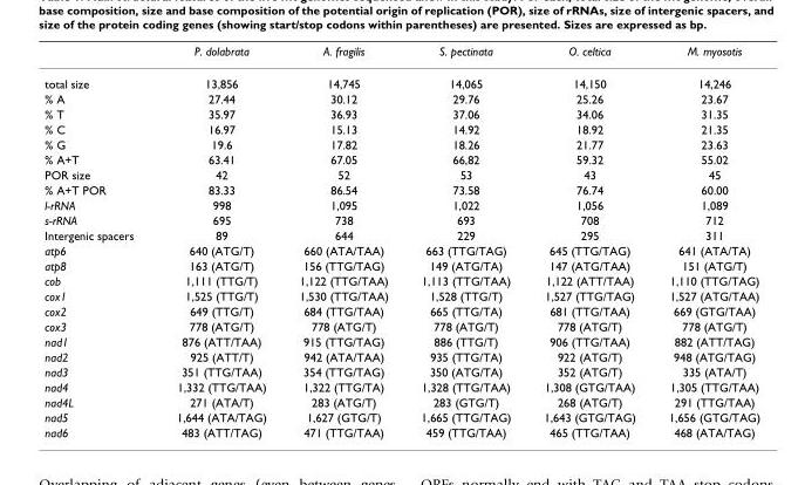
<table><thead><tr><td></td><td>P. dolabrata</td><td>A. fragilis</td><td>S. pectinata</td><td>O. celtica</td><td>M. myosotis</td></tr></thead><tbody><tr><td>total size</td><td>13,856</td><td>14,745</td><td>14,065</td><td>14,150</td><td>14,246</td></tr><tr><td>% A</td><td>27.44</td><td>30.12</td><td>29.76</td><td>25.26</td><td>23.67</td></tr><tr><td>% T</td><td>35.97</td><td>36.93</td><td>37.06</td><td>34.06</td><td>31.35</td></tr><tr><td>% C</td><td>16.97</td><td>15.13</td><td>14.92</td><td>18.92</td><td>21.35</td></tr><tr><td>% G</td><td>19.6</td><td>17.82</td><td>18.26</td><td>21.77</td><td>23.63</td></tr><tr><td>% A+T</td><td>63.41</td><td>67.05</td><td>66,82</td><td>59.32</td><td>55.02</td></tr><tr><td>POR size</td><td>42</td><td>52</td><td>53</td><td>43</td><td>45</td></tr><tr><td>% A+T POR</td><td>83.33</td><td>86.54</td><td>73.58</td><td>76.74</td><td>60.00</td></tr><tr><td>l-rRNA</td><td>998</td><td>1,095</td><td>1,022</td><td>1,056</td><td>1,089</td></tr><tr><td>s-rRNA</td><td>695</td><td>738</td><td>693</td><td>708</td><td>712</td></tr><tr><td>Intergenic spacers</td><td>89</td><td>644</td><td>229</td><td>295</td><td>311</td></tr><tr><td>atp6</td><td>640 (ATG/T)</td><td>660 (ATA/TAA)</td><td>663 (TTG/TAG)</td><td>645 (TTG/TAG)</td><td>641 (ATA/TA)</td></tr><tr><td>atp8</td><td>163 (ATG/T)</td><td>156 (TTG/TAG)</td><td>149 (ATG/TA)</td><td>147 (ATG/TAA)</td><td>151 (ATG/T)</td></tr><tr><td>cob</td><td>1,111 (TTG/T)</td><td>1,122 (TTG/TAA)</td><td>1,113 (TTG/TAA)</td><td>1,122 (ATT/TAA)</td><td>1,110 (TTG/TAG)</td></tr><tr><td>cox1</td><td>1,525 (TTG/T)</td><td>1,530 (TTG/TAA)</td><td>1,528 (TTG/T)</td><td>1,527 (TTG/TAG)</td><td>1,527 (ATG/TAA)</td></tr><tr><td>cox2</td><td>649 (TTG/T)</td><td>684 (TTG/TAA)</td><td>665 (TTG/TA)</td><td>681 (TTG/TAA)</td><td>669 (GTG/TAA)</td></tr><tr><td>cox3</td><td>778 (ATG/T)</td><td>778 (ATG/T)</td><td>778 (ATG/T)</td><td>778 (ATG/T)</td><td>778 (ATG/T)</td></tr><tr><td>nad1</td><td>876 (ATT/TAA)</td><td>915 (TTG/TAG)</td><td>886 (TTG/T)</td><td>906 (TTG/TAA)</td><td>882 (ATT/TAG)</td></tr><tr><td>nad2</td><td>925 (ATT/T)</td><td>942 (ATA/TAA)</td><td>935 (TTG/TA)</td><td>922 (ATG/T)</td><td>948 (ATG/TAG)</td></tr><tr><td>nad3</td><td>351 (TTG/TAA)</td><td>354 (TTG/TAG)</td><td>350 (ATG/TA)</td><td>352 (ATG/T)</td><td>335 (ATA/T)</td></tr><tr><td>nad4</td><td>1,332 (TTG/TAA)</td><td>1,322 (TTG/TA)</td><td>1,328 (TTG/TAA)</td><td>1,308 (GTG/TAA)</td><td>1,305 (TTG/TAA)</td></tr><tr><td>nad4L</td><td>271 (ATA/T)</td><td>283 (ATG/T)</td><td>283 (GTG/T)</td><td>268 (ATG/T)</td><td>291 (TTG/TAA)</td></tr><tr><td>nad5</td><td>1,644 (ATA/TAG)</td><td>1,627 (GTG/T)</td><td>1,665 (TTG/TAG)</td><td>1,643 (GTG/TAG)</td><td>1,656 (GTG/TAG)</td></tr><tr><td>nad6</td><td>483 (ATT/TAG)</td><td>471 (TTG/TAA)</td><td>459 (TTG/TAA)</td><td>465 (TTG/TAA)</td><td>468 (ATA/TAG)</td></tr></tbody></table>